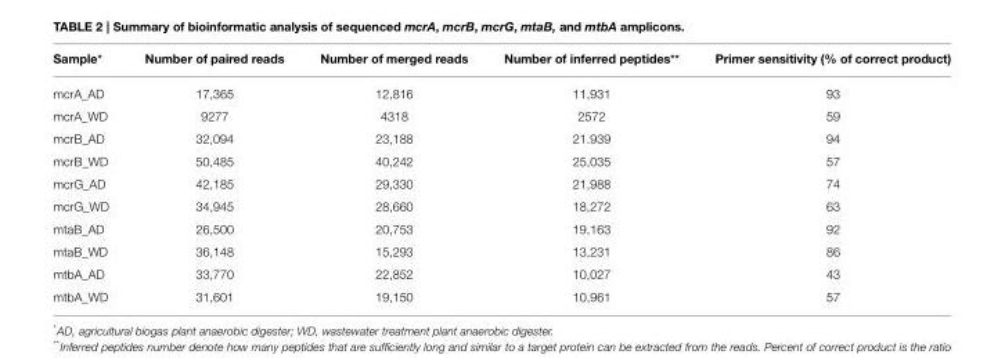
<table><thead><tr><td>Sample*</td><td>Number of paired reads</td><td>Number of merged reads</td><td>Number of inferred peptides**</td><td>Primer sensitivity (% of correct product)</td></tr></thead><tbody><tr><td>mcrA_AD</td><td>17,365</td><td>12,816</td><td>11,931</td><td>93</td></tr><tr><td>mcrA_WD</td><td>9277</td><td>4318</td><td>2572</td><td>59</td></tr><tr><td>mcrB_AD</td><td>32,094</td><td>23,188</td><td>21.939</td><td>94</td></tr><tr><td>mcrB_WD</td><td>50,485</td><td>40,242</td><td>25,035</td><td>57</td></tr><tr><td>mcrG_AD</td><td>42,185</td><td>29,330</td><td>21,988</td><td>74</td></tr><tr><td>mcrG_WD</td><td>34,945</td><td>28,660</td><td>18,272</td><td>63</td></tr><tr><td>mtaB_AD</td><td>26,500</td><td>20,753</td><td>19,163</td><td>92</td></tr><tr><td>mtaB_WD</td><td>36,148</td><td>15,293</td><td>13,231</td><td>86</td></tr><tr><td>mtbA_AD</td><td>33,770</td><td>22,852</td><td>10,027</td><td>43</td></tr><tr><td>mtbA_WD</td><td>31,601</td><td>19,150</td><td>10,961</td><td>57</td></tr></tbody></table>